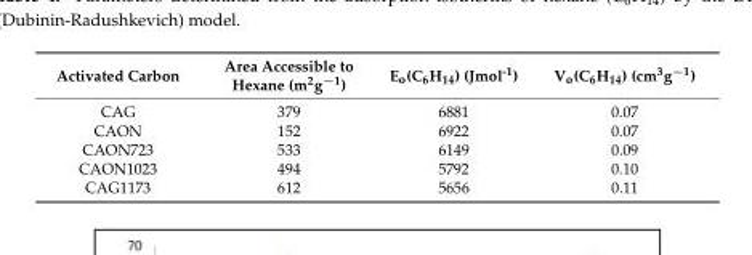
<table><thead><tr><td>Activated Carbon</td><td>Area Accessible to Hexane (m<sup>2</sup>g<sup>−1</sup>)</td><td>E<sub>o</sub>(C<sub>6</sub>H<sub>14</sub>) (Jmol<sup>-1</sup>)</td><td>V<sub>o</sub>(C<sub>6</sub>H<sub>14</sub>) (cm<sup>3</sup>g<sup>−1</sup>)</td></tr></thead><tbody><tr><td>CAG</td><td>379</td><td>6881</td><td>0.07</td></tr><tr><td>CAON</td><td>152</td><td>6922</td><td>0.07</td></tr><tr><td>CAON723</td><td>533</td><td>6149</td><td>0.09</td></tr><tr><td>CAON1023</td><td>494</td><td>5792</td><td>0.10</td></tr><tr><td>CAG1173</td><td>612</td><td>5656</td><td>0.11</td></tr></tbody></table>